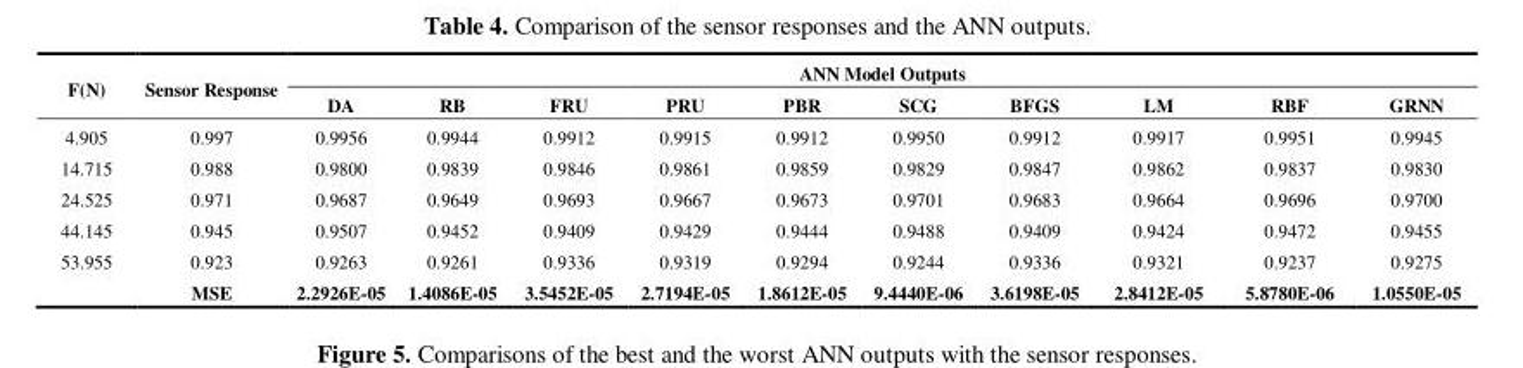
<table><thead><tr><td rowspan="2">F(N)</td><td rowspan="2">Sensor Response</td><td colspan="10">ANN Model Outputs</td></tr><tr><td>DA</td><td>RB</td><td>FRU</td><td>PRU</td><td>PBR</td><td>SCG</td><td>BFGS</td><td>LM</td><td>RBF</td><td>GRNN</td></tr></thead><tbody><tr><td>4.905</td><td>0.997</td><td>0.9956</td><td>0.9944</td><td>0.9912</td><td>0.9915</td><td>0.9912</td><td>0.9950</td><td>0.9912</td><td>0.9917</td><td>0.9951</td><td>0.9945</td></tr><tr><td>14.715</td><td>0.988</td><td>0.9800</td><td>0.9839</td><td>0.9846</td><td>0.9861</td><td>0.9859</td><td>0.9829</td><td>0.9847</td><td>0.9862</td><td>0.9837</td><td>0.9830</td></tr><tr><td>24.525</td><td>0.971</td><td>0.9687</td><td>0.9649</td><td>0.9693</td><td>0.9667</td><td>0.9673</td><td>0.9701</td><td>0.9683</td><td>0.9664</td><td>0.9696</td><td>0.9700</td></tr><tr><td>44.145</td><td>0.945</td><td>0.9507</td><td>0.9452</td><td>0.9409</td><td>0.9429</td><td>0.9444</td><td>0.9488</td><td>0.9409</td><td>0.9424</td><td>0.9472</td><td>0.9455</td></tr><tr><td rowspan="2">53.955</td><td>0.923</td><td>0.9263</td><td>0.9261</td><td>0.9336</td><td>0.9319</td><td>0.9294</td><td>0.9244</td><td>0.9336</td><td>0.9321</td><td>0.9237</td><td>0.9275</td></tr><tr><td>MSE</td><td>2.2926E-05</td><td>1.4086E-05</td><td>3.5452E-05</td><td>2.7194E-05</td><td>1.8612E-05</td><td>9.4440E-06</td><td>3.6198E-05</td><td>2.8412E-05</td><td>5.8780E-06</td><td>1.0550E-05</td></tr></tbody></table>